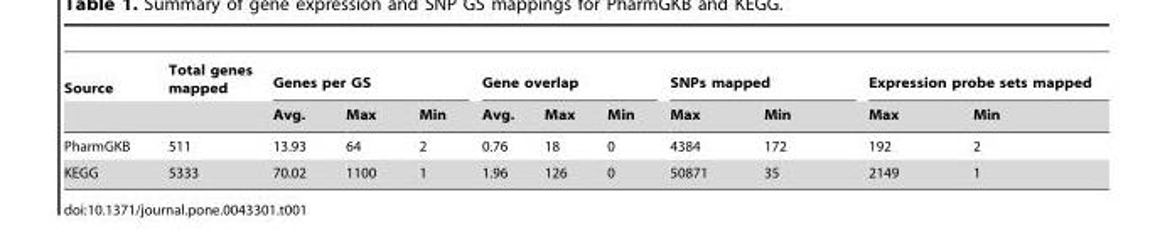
<table><thead><tr><td rowspan="2">Source</td><td rowspan="2">Total genes mapped</td><td colspan="3">Genes per GS</td><td colspan="3">Gene overlap</td><td colspan="2">SNPs mapped</td><td colspan="2">Expression probe sets mapped</td></tr><tr><td>Avg.</td><td>Max</td><td>Min</td><td>Avg.</td><td>Max</td><td>Min</td><td>Max</td><td>Min</td><td>Max</td><td>Min</td></tr></thead><tbody><tr><td>PharmGKB</td><td>511</td><td>13.93</td><td>64</td><td>2</td><td>0.76</td><td>18</td><td>0</td><td>4384</td><td>172</td><td>192</td><td>2</td></tr><tr><td>KEGG</td><td>5333</td><td>70.02</td><td>1100</td><td>1</td><td>1.96</td><td>126</td><td>0</td><td>50871</td><td>35</td><td>2149</td><td>1</td></tr></tbody></table>